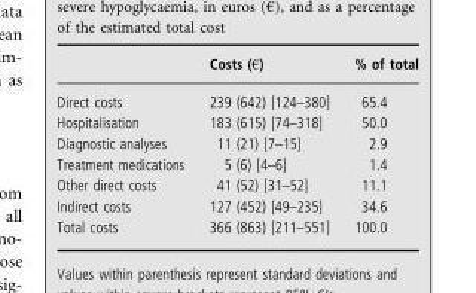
<table><thead><tr><td></td><td>Costs (€)</td><td>% of total</td></tr></thead><tbody><tr><td>Direct costs</td><td>239 (642) [124–380]</td><td>65.4</td></tr><tr><td>Hospitalisation</td><td>183 (615) [74–318]</td><td>50.0</td></tr><tr><td>Diagnostic analyses</td><td>11 (21) [7–15]</td><td>2.9</td></tr><tr><td>Treatment medications</td><td>5 (6) [4–6]</td><td>1.4</td></tr><tr><td>Other direct costs</td><td>41 (52) [31–52]</td><td>11.1</td></tr><tr><td>Indirect costs</td><td>127 (452) [49–235]</td><td>34.6</td></tr><tr><td>Total costs</td><td>366 (863) [211–551]</td><td>100.0</td></tr></tbody></table>